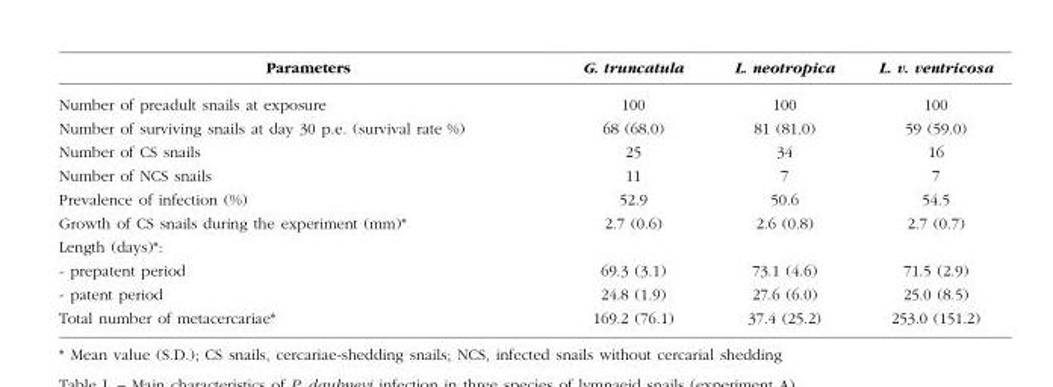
<table><thead><tr><td>Parameters</td><td>G. truncatula</td><td>L. neotropica</td><td>L. v. ventricosa</td></tr></thead><tbody><tr><td>Number of preadult snails at exposure</td><td>100</td><td>100</td><td>100</td></tr><tr><td>Number of surviving snails at day 30 p.e. (survival rate %)</td><td>68 (68.0)</td><td>81 (81.0)</td><td>59 (59.0)</td></tr><tr><td>Number of CS snails</td><td>25</td><td>34</td><td>16</td></tr><tr><td>Number of NCS snails</td><td>11</td><td>7</td><td>7</td></tr><tr><td>Prevalence of infection (%)</td><td>52.9</td><td>50.6</td><td>54.5</td></tr><tr><td>Growth of CS snails during the experiment (mm)*</td><td>2.7 (0.6)</td><td>2.6 (0.8)</td><td>2.7 (0.7)</td></tr><tr><td colspan="4">Length (days)*:</td></tr><tr><td>- prepatent period</td><td>69.3 (3.1)</td><td>73.1 (4.6)</td><td>71.5 (2.9)</td></tr><tr><td>- patent period</td><td>24.8 (1.9)</td><td>27.6 (6.0)</td><td>25.0 (8.5)</td></tr><tr><td>Total number of metacercariae*</td><td>169.2 (76.1)</td><td>37.4 (25.2)</td><td>253.0 (151.2)</td></tr></tbody></table>